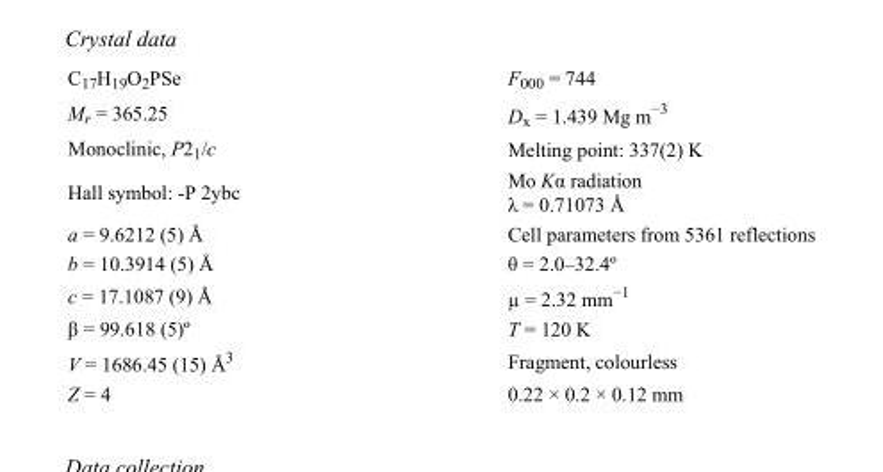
<table><tbody><tr><td>C<sub>17</sub>H<sub>19</sub>O<sub>2</sub>PSe</td><td>F000 = 744</td></tr><tr><td>M<sub>r</sub> = 365.25</td><td>D<sub>x</sub> = 1.439 Mg m<sup>−3</sup></td></tr><tr><td>Monoclinic, P2<sub>1</sub>/c</td><td>Melting point: 337(2) K</td></tr><tr><td>Hall symbol: -P 2ybc</td><td>Mo Kα radiation λ = 0.71073 Å</td></tr><tr><td>a = 9.6212 (5) Å</td><td>Cell parameters from 5361 reflections</td></tr><tr><td>b = 10.3914 (5) Å</td><td>θ = 2.0–32.4º</td></tr><tr><td>c = 17.1087 (9) Å</td><td>µ = 2.32 mm<sup>−1</sup></td></tr><tr><td>β = 99.618 (5)º</td><td>T = 120 K</td></tr><tr><td>V = 1686.45 (15) Å<sup>3</sup></td><td>Fragment, colourless</td></tr><tr><td>Z = 4</td><td>0.22 × 0.2 × 0.12 mm</td></tr></tbody></table>